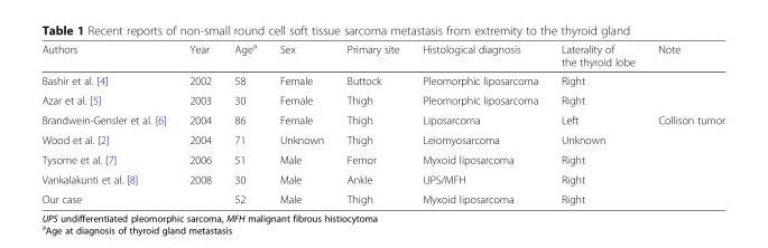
<table><thead><tr><td>Authors</td><td>Year</td><td>Age<sup>a</sup></td><td>Sex</td><td>Primary site</td><td>Histological diagnosis</td><td>Laterality of the thyroid lobe</td><td>Note</td></tr></thead><tbody><tr><td>Bashir et al. [4]</td><td>2002</td><td>58</td><td>Female</td><td>Buttock</td><td>Pleomorphic liposarcoma</td><td>Right</td><td></td></tr><tr><td>Azar et al. [5]</td><td>2003</td><td>30</td><td>Female</td><td>Thigh</td><td>Pleomorphic liposarcoma</td><td>Right</td><td></td></tr><tr><td>Brandwein-Gensler et al. [6]</td><td>2004</td><td>86</td><td>Female</td><td>Thigh</td><td>Liposarcoma</td><td>Left</td><td>Collison tumor</td></tr><tr><td>Wood et al. [2]</td><td>2004</td><td>71</td><td>Unknown</td><td>Thigh</td><td>Leiomyosarcoma</td><td>Unknown</td><td></td></tr><tr><td>Tysome et al. [7]</td><td>2006</td><td>51</td><td>Male</td><td>Femor</td><td>Myxoid liposarcoma</td><td>Right</td><td></td></tr><tr><td>Vankalakunti et al. [8]</td><td>2008</td><td>30</td><td>Male</td><td>Ankle</td><td>UPS/MFH</td><td>Right</td><td></td></tr><tr><td>Our case</td><td></td><td>52</td><td>Male</td><td>Thigh</td><td>Myxoid liposarcoma</td><td>Right</td><td></td></tr></tbody></table>